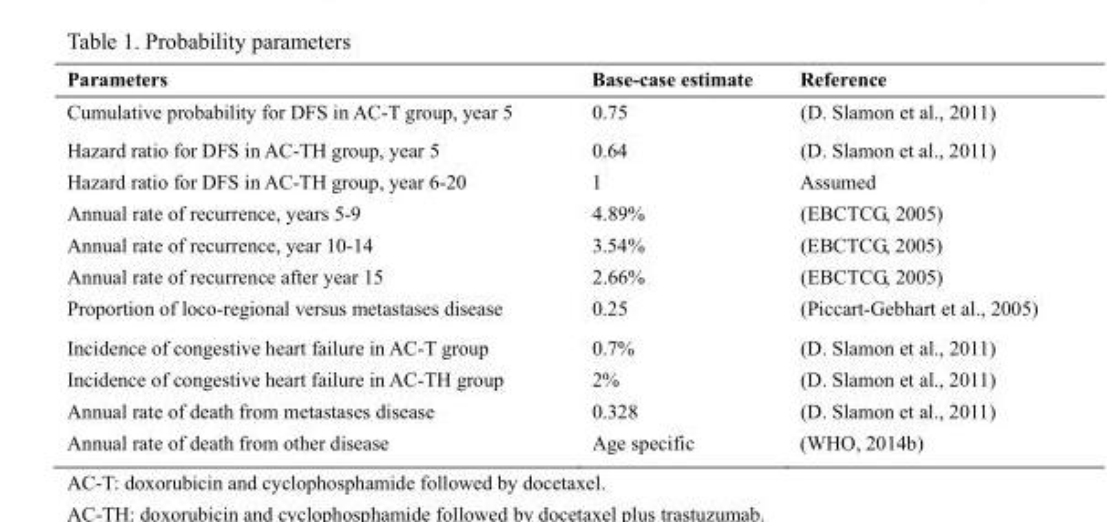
<table><thead><tr><td>Parameters</td><td>Base-case estimate</td><td>Reference</td></tr></thead><tbody><tr><td>Cumulative probability for DFS in AC-T group, year 5</td><td>0.75</td><td>(D. Slamon et al., 2011)</td></tr><tr><td>Hazard ratio for DFS in AC-TH group, year 5</td><td>0.64</td><td>(D. Slamon et al., 2011)</td></tr><tr><td>Hazard ratio for DFS in AC-TH group, year 6-20</td><td>1</td><td>Assumed</td></tr><tr><td>Annual rate of recurrence, years 5-9</td><td>4.89%</td><td>(EBCTCG, 2005)</td></tr><tr><td>Annual rate of recurrence, year 10-14</td><td>3.54%</td><td>(EBCTCG, 2005)</td></tr><tr><td>Annual rate of recurrence after year 15</td><td>2.66%</td><td>(EBCTCG, 2005)</td></tr><tr><td>Proportion of loco-regional versus metastases disease</td><td>0.25</td><td>(Piccart-Gebhart et al., 2005)</td></tr><tr><td>Incidence of congestive heart failure in AC-T group</td><td>0.7%</td><td>(D. Slamon et al., 2011)</td></tr><tr><td>Incidence of congestive heart failure in AC-TH group</td><td>2%</td><td>(D. Slamon et al., 2011)</td></tr><tr><td>Annual rate of death from metastases disease</td><td>0.328</td><td>(D. Slamon et al., 2011)</td></tr><tr><td>Annual rate of death from other disease</td><td>Age specific</td><td>(WHO, 2014b)</td></tr></tbody></table>